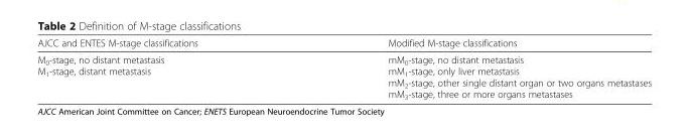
<table><thead><tr><td>AJCC and ENTES M-stage classifications</td><td>Modified M-stage classifications</td></tr></thead><tbody><tr><td>M<sub>0</sub>-stage, no distant metastasis M<sub>1</sub>-stage, distant metastasis</td><td>mM<sub>0</sub>-stage, no distant metastasis mM<sub>1</sub>-stage, only liver metastasis mM<sub>2</sub>-stage, other single distant organ or two organs metastases mM<sub>3</sub>-stage, three or more organs metastases</td></tr></tbody></table>